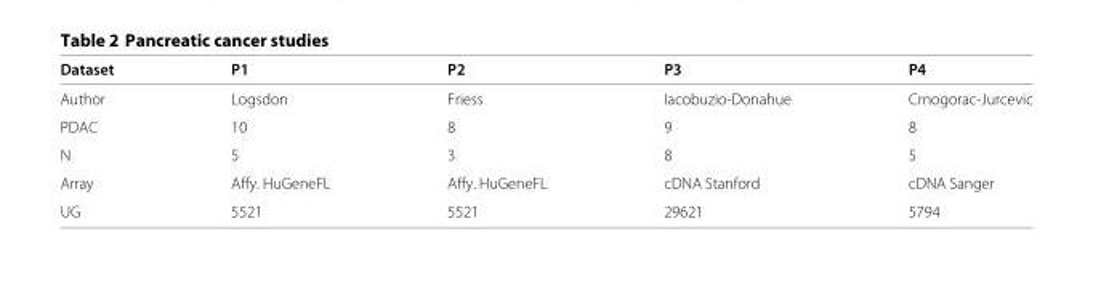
<table><thead><tr><td>Dataset</td><td>P1</td><td>P2</td><td>P3</td><td>P4</td></tr></thead><tbody><tr><td>Author</td><td>Logsdon</td><td>Friess</td><td>Iacobuzio-Donahue</td><td>Crnogorac-Jurcevic</td></tr><tr><td>PDAC</td><td>10</td><td>8</td><td>9</td><td>8</td></tr><tr><td>N</td><td>5</td><td>3</td><td>8</td><td>5</td></tr><tr><td>Array</td><td>Affy. HuGeneFL</td><td>Affy. HuGeneFL</td><td>cDNA Stanford</td><td>cDNA Sanger</td></tr><tr><td>UG</td><td>5521</td><td>5521</td><td>29621</td><td>5794</td></tr></tbody></table>